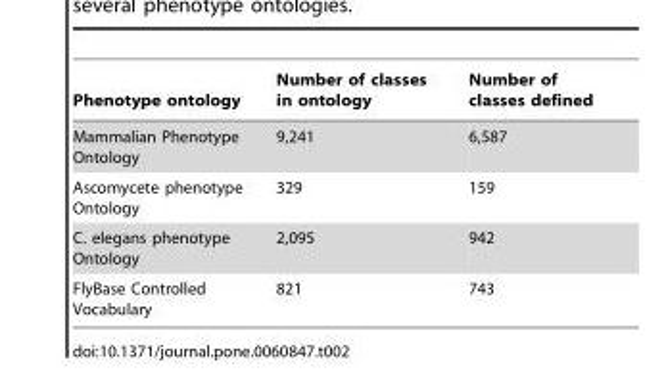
<table><thead><tr><td>Phenotype ontology</td><td>Number of classes in ontology</td><td>Number of classes defined</td></tr></thead><tbody><tr><td>Mammalian Phenotype Ontology</td><td>9,241</td><td>6,587</td></tr><tr><td>Ascomycete phenotype Ontology</td><td>329</td><td>159</td></tr><tr><td>C. elegans phenotype Ontology</td><td>2,095</td><td>942</td></tr><tr><td>FlyBase Controlled Vocabulary</td><td>821</td><td>743</td></tr></tbody></table>